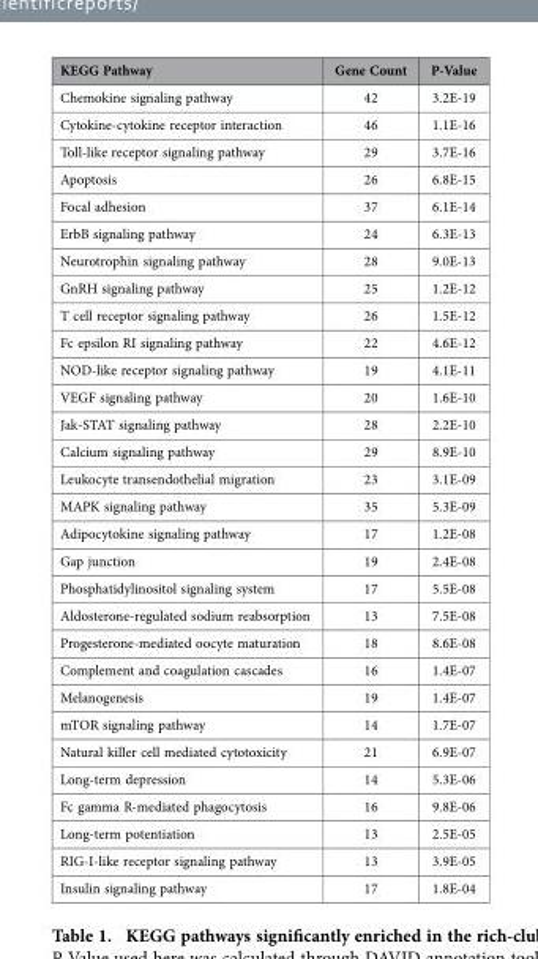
<table><thead><tr><td>KEGG Pathway</td><td>Gene Count</td><td>P-Value</td></tr></thead><tbody><tr><td>Chemokine signaling pathway</td><td>42</td><td>3.2E-19</td></tr><tr><td>Cytokine-cytokine receptor interaction</td><td>46</td><td>1.1E-16</td></tr><tr><td>Toll-like receptor signaling pathway</td><td>29</td><td>3.7E-16</td></tr><tr><td>Apoptosis</td><td>26</td><td>6.8E-15</td></tr><tr><td>Focal adhesion</td><td>37</td><td>6.1E-14</td></tr><tr><td>ErbB signaling pathway</td><td>24</td><td>6.3E-13</td></tr><tr><td>Neurotrophin signaling pathway</td><td>28</td><td>9.0E-13</td></tr><tr><td>GnRH signaling pathway</td><td>25</td><td>1.2E-12</td></tr><tr><td>T cell receptor signaling pathway</td><td>26</td><td>1.5E-12</td></tr><tr><td>Fc epsilon RI signaling pathway</td><td>22</td><td>4.6E-12</td></tr><tr><td>NOD-like receptor signaling pathway</td><td>19</td><td>4.1E-11</td></tr><tr><td>VEGF signaling pathway</td><td>20</td><td>1.6E-10</td></tr><tr><td>Jak-STAT signaling pathway</td><td>28</td><td>2.2E-10</td></tr><tr><td>Calcium signaling pathway</td><td>29</td><td>8.9E-10</td></tr><tr><td>Leukocyte transendothelial migration</td><td>23</td><td>3.1E-09</td></tr><tr><td>MAPK signaling pathway</td><td>35</td><td>5.3E-09</td></tr><tr><td>Adipocytokine signaling pathway</td><td>17</td><td>1.2E-08</td></tr><tr><td>Gap junction</td><td>19</td><td>2.4E-08</td></tr><tr><td>Phosphatidylinositol signaling system</td><td>17</td><td>5.5E-08</td></tr><tr><td>Aldosterone-regulated sodium reabsorption</td><td>13</td><td>7.5E-08</td></tr><tr><td>Progesterone-mediated oocyte maturation</td><td>18</td><td>8.6E-08</td></tr><tr><td>Complement and coagulation cascades</td><td>16</td><td>1.4E-07</td></tr><tr><td>Melanogenesis</td><td>19</td><td>1.4E-07</td></tr><tr><td>mTOR signaling pathway</td><td>14</td><td>1.7E-07</td></tr><tr><td>Natural killer cell mediated cytotoxicity</td><td>21</td><td>6.9E-07</td></tr><tr><td>Long-term depression</td><td>14</td><td>5.3E-06</td></tr><tr><td>Fc gamma R-mediated phagocytosis</td><td>16</td><td>9.8E-06</td></tr><tr><td>Long-term potentiation</td><td>13</td><td>2.5E-05</td></tr><tr><td>RIG-I-like receptor signaling pathway</td><td>13</td><td>3.9E-05</td></tr><tr><td>Insulin signaling pathway</td><td>17</td><td>1.8E-04</td></tr></tbody></table>